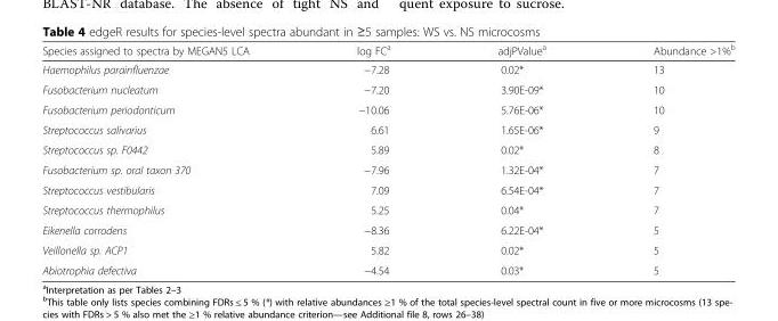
<table><thead><tr><td>Species assigned to spectra by MEGAN5 LCA</td><td>log FC<sup>a</sup></td><td>adjPValue<sup>a</sup></td><td>Abundance &gt;1%<sup>b</sup></td></tr></thead><tbody><tr><td>Haemophilus parainfluenzae</td><td>−7.28</td><td>0.02*</td><td>13</td></tr><tr><td>Fusobacterium nucleatum</td><td>−7.20</td><td>3.90E-09*</td><td>10</td></tr><tr><td>Fusobacterium periodonticum</td><td>−10.06</td><td>5.76E-06*</td><td>10</td></tr><tr><td>Streptococcus salivarius</td><td>6.61</td><td>1.65E-06*</td><td>9</td></tr><tr><td>Streptococcus sp. F0442</td><td>5.89</td><td>0.02*</td><td>8</td></tr><tr><td>Fusobacterium sp. oral taxon 370</td><td>−7.96</td><td>1.32E-04*</td><td>7</td></tr><tr><td>Streptococcus vestibularis</td><td>7.09</td><td>6.54E-04*</td><td>7</td></tr><tr><td>Streptococcus thermophilus</td><td>5.25</td><td>0.04*</td><td>7</td></tr><tr><td>Eikenella corrodens</td><td>−8.36</td><td>6.22E-04*</td><td>5</td></tr><tr><td>Veillonella sp. ACP1</td><td>5.82</td><td>0.02*</td><td>5</td></tr><tr><td>Abiotrophia defectiva</td><td>−4.54</td><td>0.03*</td><td>5</td></tr></tbody></table>